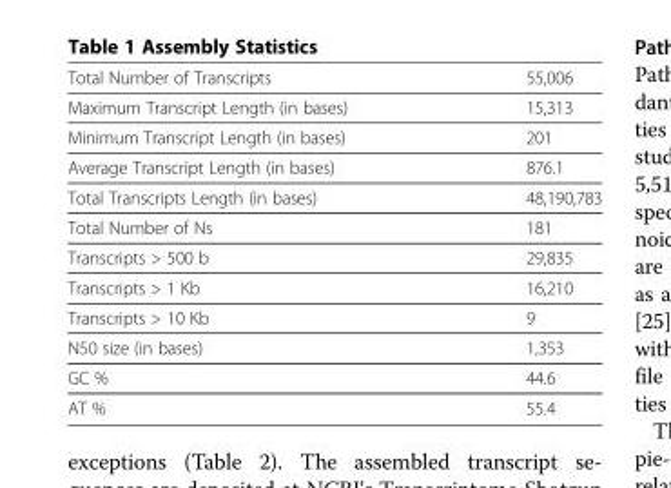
<table><tbody><tr><td>Total Number of Transcripts</td><td>55,006</td></tr><tr><td>Maximum Transcript Length (in bases)</td><td>15,313</td></tr><tr><td>Minimum Transcript Length (in bases)</td><td>201</td></tr><tr><td>Average Transcript Length (in bases)</td><td>876.1</td></tr><tr><td>Total Transcripts Length (in bases)</td><td>48,190,783</td></tr><tr><td>Total Number of Ns</td><td>181</td></tr><tr><td>Transcripts &gt; 500 b</td><td>29,835</td></tr><tr><td>Transcripts &gt; 1 Kb</td><td>16,210</td></tr><tr><td>Transcripts &gt; 10 Kb</td><td>9</td></tr><tr><td>N50 size (in bases)</td><td>1,353</td></tr><tr><td>GC %</td><td>44.6</td></tr><tr><td>AT %</td><td>55.4</td></tr></tbody></table>